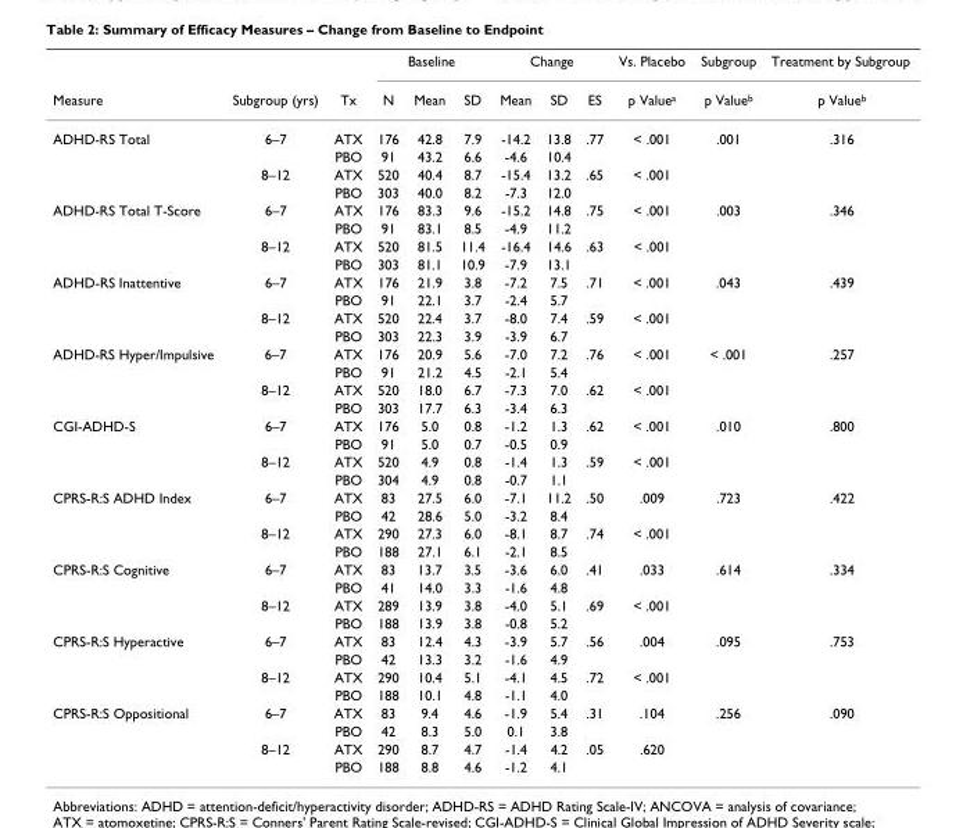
<table><thead><tr><td rowspan="2">Measure</td><td rowspan="2">Subgroup (yrs)</td><td rowspan="2">Tx</td><td colspan="3">Baseline</td><td colspan="3">Change</td><td rowspan="2">Vs. Placebo p Value<sup>a</sup></td><td rowspan="2">Subgroup p Value<sup>b</sup></td><td rowspan="2">Treatment by Subgroup p Value<sup>b</sup></td></tr><tr><td>N</td><td>Mean</td><td>SD</td><td>Mean</td><td>SD</td><td>ES</td></tr></thead><tbody><tr><td rowspan="4">ADHD-RS Total</td><td>6–7</td><td>ATX</td><td>176</td><td>42.8</td><td>7.9</td><td>-14.2</td><td>13.8</td><td>.77</td><td>&lt; .001</td><td>.001</td><td>.316</td></tr><tr><td></td><td>PBO</td><td>91</td><td>43.2</td><td>6.6</td><td>-4.6</td><td>10.4</td><td></td><td></td><td></td><td></td></tr><tr><td>8–12</td><td>ATX</td><td>520</td><td>40.4</td><td>8.7</td><td>-15.4</td><td>13.2</td><td>.65</td><td>&lt; .001</td><td></td><td></td></tr><tr><td></td><td>PBO</td><td>303</td><td>40.0</td><td>8.2</td><td>-7.3</td><td>12.0</td><td></td><td></td><td></td><td></td></tr><tr><td rowspan="4">ADHD-RS Total T-Score</td><td>6–7</td><td>ATX</td><td>176</td><td>83.3</td><td>9.6</td><td>-15.2</td><td>14.8</td><td>.75</td><td>&lt; .001</td><td>.003</td><td>.346</td></tr><tr><td></td><td>PBO</td><td>91</td><td>83.1</td><td>8.5</td><td>-4.9</td><td>11.2</td><td></td><td></td><td></td><td></td></tr><tr><td>8–12</td><td>ATX</td><td>520</td><td>81.5</td><td>11.4</td><td>-16.4</td><td>14.6</td><td>.63</td><td>&lt; .001</td><td></td><td></td></tr><tr><td></td><td>PBO</td><td>303</td><td>81.1</td><td>10.9</td><td>-7.9</td><td>13.1</td><td></td><td></td><td></td><td></td></tr><tr><td rowspan="4">ADHD-RS Inattentive</td><td>6–7</td><td>ATX</td><td>176</td><td>21.9</td><td>3.8</td><td>-7.2</td><td>7.5</td><td>.71</td><td>&lt; .001</td><td>.043</td><td>.439</td></tr><tr><td></td><td>PBO</td><td>91</td><td>22.1</td><td>3.7</td><td>-2.4</td><td>5.7</td><td></td><td></td><td></td><td></td></tr><tr><td>8–12</td><td>ATX</td><td>520</td><td>22.4</td><td>3.7</td><td>-8.0</td><td>7.4</td><td>.59</td><td>&lt; .001</td><td></td><td></td></tr><tr><td></td><td>PBO</td><td>303</td><td>22.3</td><td>3.9</td><td>-3.9</td><td>6.7</td><td></td><td></td><td></td><td></td></tr><tr><td rowspan="4">ADHD-RS Hyper/Impulsive</td><td>6–7</td><td>ATX</td><td>176</td><td>20.9</td><td>5.6</td><td>-7.0</td><td>7.2</td><td>.76</td><td>&lt; .001</td><td>&lt; .001</td><td>.257</td></tr><tr><td></td><td>PBO</td><td>91</td><td>21.2</td><td>4.5</td><td>-2.1</td><td>5.4</td><td></td><td></td><td></td><td></td></tr><tr><td>8–12</td><td>ATX</td><td>520</td><td>18.0</td><td>6.7</td><td>-7.3</td><td>7.0</td><td>.62</td><td>&lt; .001</td><td></td><td></td></tr><tr><td></td><td>PBO</td><td>303</td><td>17.7</td><td>6.3</td><td>-3.4</td><td>6.3</td><td></td><td></td><td></td><td></td></tr><tr><td rowspan="4">CGI-ADHD-S</td><td>6–7</td><td>ATX</td><td>176</td><td>5.0</td><td>0.8</td><td>-1.2</td><td>1.3</td><td>.62</td><td>&lt; .001</td><td>.010</td><td>.800</td></tr><tr><td></td><td>PBO</td><td>91</td><td>5.0</td><td>0.7</td><td>-0.5</td><td>0.9</td><td></td><td></td><td></td><td></td></tr><tr><td>8–12</td><td>ATX</td><td>520</td><td>4.9</td><td>0.8</td><td>-1.4</td><td>1.3</td><td>.59</td><td>&lt; .001</td><td></td><td></td></tr><tr><td></td><td>PBO</td><td>304</td><td>4.9</td><td>0.8</td><td>-0.7</td><td>1.1</td><td></td><td></td><td></td><td></td></tr><tr><td rowspan="4">CPRS-R:S ADHD Index</td><td>6–7</td><td>ATX</td><td>83</td><td>27.5</td><td>6.0</td><td>-7.1</td><td>11.2</td><td>.50</td><td>.009</td><td>.723</td><td>.422</td></tr><tr><td></td><td>PBO</td><td>42</td><td>28.6</td><td>5.0</td><td>-3.2</td><td>8.4</td><td></td><td></td><td></td><td></td></tr><tr><td>8–12</td><td>ATX</td><td>290</td><td>27.3</td><td>6.0</td><td>-8.1</td><td>8.7</td><td>.74</td><td>&lt; .001</td><td></td><td></td></tr><tr><td></td><td>PBO</td><td>188</td><td>27.1</td><td>6.1</td><td>-2.1</td><td>8.5</td><td></td><td></td><td></td><td></td></tr><tr><td rowspan="4">CPRS-R:S Cognitive</td><td>6–7</td><td>ATX</td><td>83</td><td>13.7</td><td>3.5</td><td>-3.6</td><td>6.0</td><td>.41</td><td>.033</td><td>.614</td><td>.334</td></tr><tr><td></td><td>PBO</td><td>41</td><td>14.0</td><td>3.3</td><td>-1.6</td><td>4.8</td><td></td><td></td><td></td><td></td></tr><tr><td>8–12</td><td>ATX</td><td>289</td><td>13.9</td><td>3.8</td><td>-4.0</td><td>5.1</td><td>.69</td><td>&lt; .001</td><td></td><td></td></tr><tr><td></td><td>PBO</td><td>188</td><td>13.9</td><td>3.8</td><td>-0.8</td><td>5.2</td><td></td><td></td><td></td><td></td></tr><tr><td rowspan="4">CPRS-R:S Hyperactive</td><td>6–7</td><td>ATX</td><td>83</td><td>12.4</td><td>4.3</td><td>-3.9</td><td>5.7</td><td>.56</td><td>.004</td><td>.095</td><td>.753</td></tr><tr><td></td><td>PBO</td><td>42</td><td>13.3</td><td>3.2</td><td>-1.6</td><td>4.9</td><td></td><td></td><td></td><td></td></tr><tr><td>8–12</td><td>ATX</td><td>290</td><td>10.4</td><td>5.1</td><td>-4.1</td><td>4.5</td><td>.72</td><td>&lt; .001</td><td></td><td></td></tr><tr><td></td><td>PBO</td><td>188</td><td>10.1</td><td>4.8</td><td>-1.1</td><td>4.0</td><td></td><td></td><td></td><td></td></tr><tr><td rowspan="4">CPRS-R:S Oppositional</td><td>6–7</td><td>ATX</td><td>83</td><td>9.4</td><td>4.6</td><td>-1.9</td><td>5.4</td><td>.31</td><td>.104</td><td>.256</td><td>.090</td></tr><tr><td></td><td>PBO</td><td>42</td><td>8.3</td><td>5.0</td><td>0.1</td><td>3.8</td><td></td><td></td><td></td><td></td></tr><tr><td>8–12</td><td>ATX</td><td>290</td><td>8.7</td><td>4.7</td><td>-1.4</td><td>4.2</td><td>.05</td><td>.620</td><td></td><td></td></tr><tr><td></td><td>PBO</td><td>188</td><td>8.8</td><td>4.6</td><td>-1.2</td><td>4.1</td><td></td><td></td><td></td><td></td></tr></tbody></table>